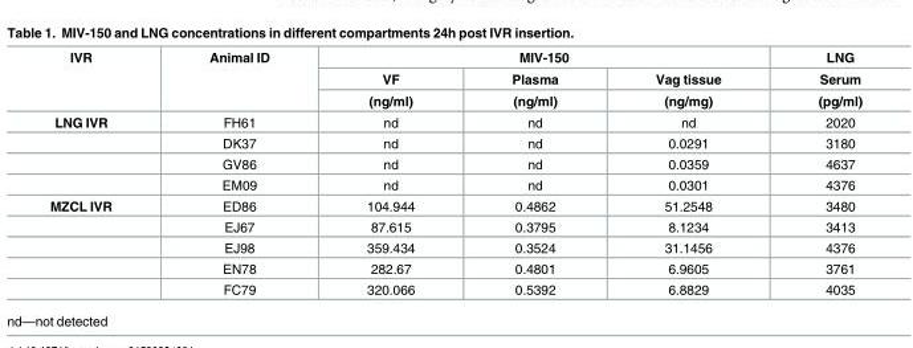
<table><thead><tr><td rowspan="3">IVR</td><td rowspan="3">Animal ID</td><td colspan="3">MIV-150</td><td rowspan="3">LNG Serum (pg/ml)</td></tr><tr><td rowspan="2">VF (ng/ml)</td><td rowspan="2">Plasma (ng/ml)</td><td rowspan="2">Vag tissue (ng/mg)</td></tr><tr></tr></thead><tbody><tr><td rowspan="4">LNG IVR</td><td>FH61</td><td>nd</td><td>nd</td><td>nd</td><td>2020</td></tr><tr><td>DK37</td><td>nd</td><td>nd</td><td>0.0291</td><td>3180</td></tr><tr><td>GV86</td><td>nd</td><td>nd</td><td>0.0359</td><td>4637</td></tr><tr><td>EM09</td><td>nd</td><td>nd</td><td>0.0301</td><td>4376</td></tr><tr><td rowspan="5">MZCL IVR</td><td>ED86</td><td>104.944</td><td>0.4862</td><td>51.2548</td><td>3480</td></tr><tr><td>EJ67</td><td>87.615</td><td>0.3795</td><td>8.1234</td><td>3413</td></tr><tr><td>EJ98</td><td>359.434</td><td>0.3524</td><td>31.1456</td><td>4376</td></tr><tr><td>EN78</td><td>282.67</td><td>0.4801</td><td>6.9605</td><td>3761</td></tr><tr><td>FC79</td><td>320.066</td><td>0.5392</td><td>6.8829</td><td>4035</td></tr></tbody></table>